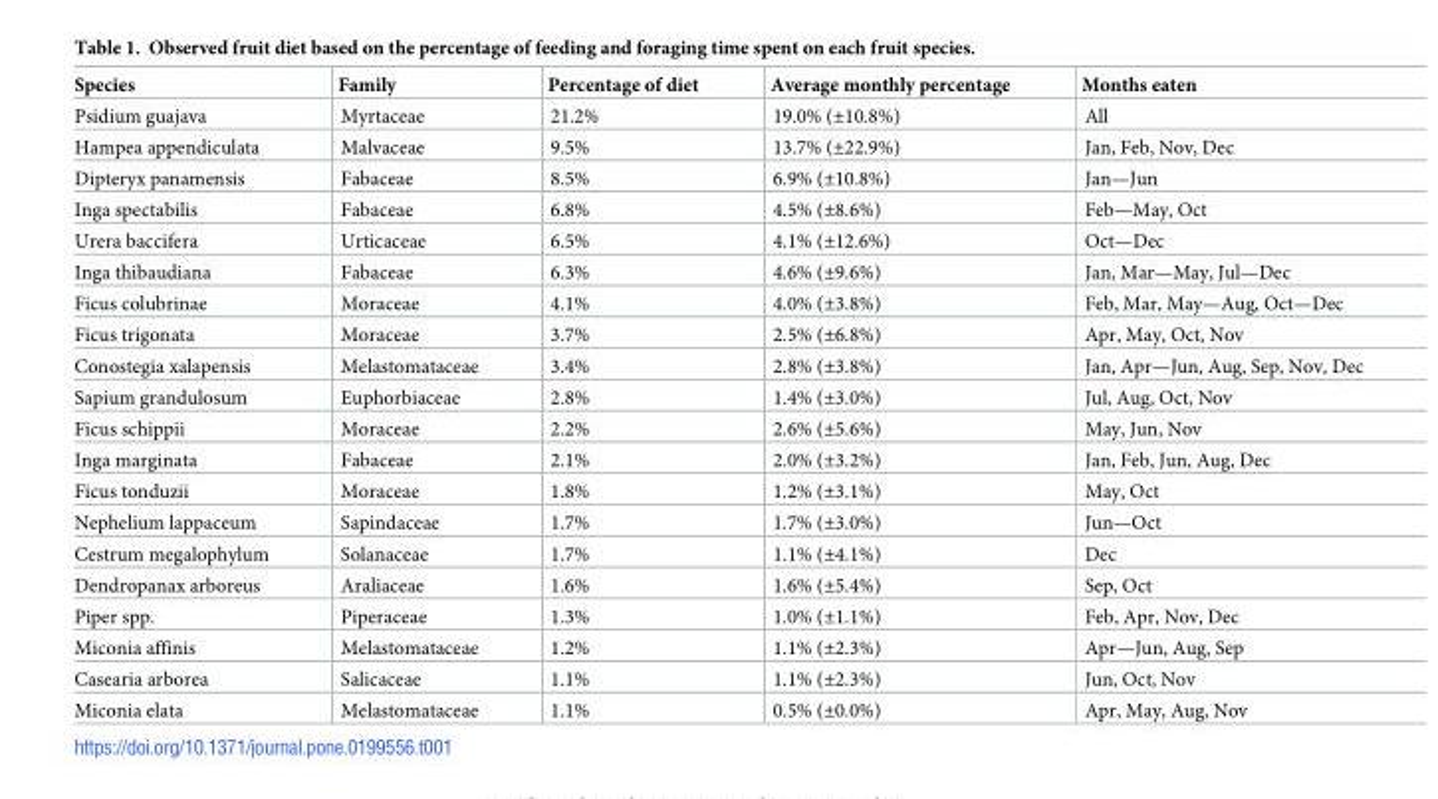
<table><thead><tr><td>Species</td><td>Family</td><td>Percentage of diet</td><td>Average monthly percentage</td><td>Months eaten</td></tr></thead><tbody><tr><td>Psidium guajava</td><td>Myrtaceae</td><td>21.2%</td><td>19.0% (±10.8%)</td><td>All</td></tr><tr><td>Hampea appendiculata</td><td>Malvaceae</td><td>9.5%</td><td>13.7% (±22.9%)</td><td>Jan, Feb, Nov, Dec</td></tr><tr><td>Dipteryx panamensis</td><td>Fabaceae</td><td>8.5%</td><td>6.9% (±10.8%)</td><td>Jan—Jun</td></tr><tr><td>Inga spectabilis</td><td>Fabaceae</td><td>6.8%</td><td>4.5% (±8.6%)</td><td>Feb—May, Oct</td></tr><tr><td>Urera baccifera</td><td>Urticaceae</td><td>6.5%</td><td>4.1% (±12.6%)</td><td>Oct—Dec</td></tr><tr><td>Inga thibaudiana</td><td>Fabaceae</td><td>6.3%</td><td>4.6% (±9.6%)</td><td>Jan, Mar—May, Jul—Dec</td></tr><tr><td>Ficus colubrinae</td><td>Moraceae</td><td>4.1%</td><td>4.0% (±3.8%)</td><td>Feb, Mar, May—Aug, Oct—Dec</td></tr><tr><td>Ficus trigonata</td><td>Moraceae</td><td>3.7%</td><td>2.5% (±6.8%)</td><td>Apr, May, Oct, Nov</td></tr><tr><td>Conostegia xalapensis</td><td>Melastomataceae</td><td>3.4%</td><td>2.8% (±3.8%)</td><td>Jan, Apr—Jun, Aug, Sep, Nov, Dec</td></tr><tr><td>Sapium grandulosum</td><td>Euphorbiaceae</td><td>2.8%</td><td>1.4% (±3.0%)</td><td>Jul, Aug, Oct, Nov</td></tr><tr><td>Ficus schippii</td><td>Moraceae</td><td>2.2%</td><td>2.6% (±5.6%)</td><td>May, Jun, Nov</td></tr><tr><td>Inga marginata</td><td>Fabaceae</td><td>2.1%</td><td>2.0% (±3.2%)</td><td>Jan, Feb, Jun, Aug, Dec</td></tr><tr><td>Ficus tonduzii</td><td>Moraceae</td><td>1.8%</td><td>1.2% (±3.1%)</td><td>May, Oct</td></tr><tr><td>Nephelium lappaceum</td><td>Sapindaceae</td><td>1.7%</td><td>1.7% (±3.0%)</td><td>Jun—Oct</td></tr><tr><td>Cestrum megalophylum</td><td>Solanaceae</td><td>1.7%</td><td>1.1% (±4.1%)</td><td>Dec</td></tr><tr><td>Dendropanax arboreus</td><td>Araliaceae</td><td>1.6%</td><td>1.6% (±5.4%)</td><td>Sep, Oct</td></tr><tr><td>Piper spp.</td><td>Piperaceae</td><td>1.3%</td><td>1.0% (±1.1%)</td><td>Feb, Apr, Nov, Dec</td></tr><tr><td>Miconia affinis</td><td>Melastomataceae</td><td>1.2%</td><td>1.1% (±2.3%)</td><td>Apr—Jun, Aug, Sep</td></tr><tr><td>Casearia arborea</td><td>Salicaceae</td><td>1.1%</td><td>1.1% (±2.3%)</td><td>Jun, Oct, Nov</td></tr><tr><td>Miconia elata</td><td>Melastomataceae</td><td>1.1%</td><td>0.5% (±0.0%)</td><td>Apr, May, Aug, Nov</td></tr></tbody></table>